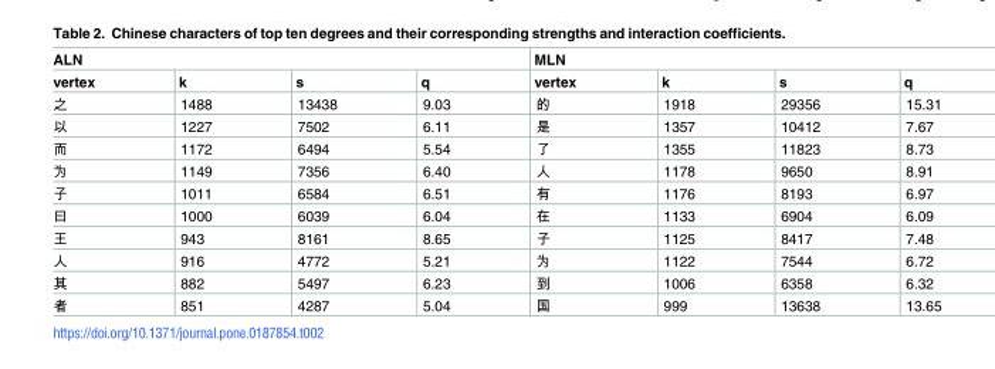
<table><thead><tr><td colspan="4">ALN</td><td colspan="4">MLN</td></tr><tr><td>vertex</td><td>k</td><td>s</td><td>q</td><td>vertex</td><td>k</td><td>s</td><td>q</td></tr></thead><tbody><tr><td>之</td><td>1488</td><td>13438</td><td>9.03</td><td>的</td><td>1918</td><td>29356</td><td>15.31</td></tr><tr><td>以</td><td>1227</td><td>7502</td><td>6.11</td><td>是</td><td>1357</td><td>10412</td><td>7.67</td></tr><tr><td>而</td><td>1172</td><td>6494</td><td>5.54</td><td>了</td><td>1355</td><td>11823</td><td>8.73</td></tr><tr><td>为</td><td>1149</td><td>7356</td><td>6.40</td><td>人</td><td>1178</td><td>9650</td><td>8.91</td></tr><tr><td>子</td><td>1011</td><td>6584</td><td>6.51</td><td>有</td><td>1176</td><td>8193</td><td>6.97</td></tr><tr><td>曰</td><td>1000</td><td>6039</td><td>6.04</td><td>在</td><td>1133</td><td>6904</td><td>6.09</td></tr><tr><td>王</td><td>943</td><td>8161</td><td>8.65</td><td>子</td><td>1125</td><td>8417</td><td>7.48</td></tr><tr><td>人</td><td>916</td><td>4772</td><td>5.21</td><td>为</td><td>1122</td><td>7544</td><td>6.72</td></tr><tr><td>其</td><td>882</td><td>5497</td><td>6.23</td><td>到</td><td>1006</td><td>6358</td><td>6.32</td></tr><tr><td>者</td><td>851</td><td>4287</td><td>5.04</td><td>国</td><td>999</td><td>13638</td><td>13.65</td></tr></tbody></table>